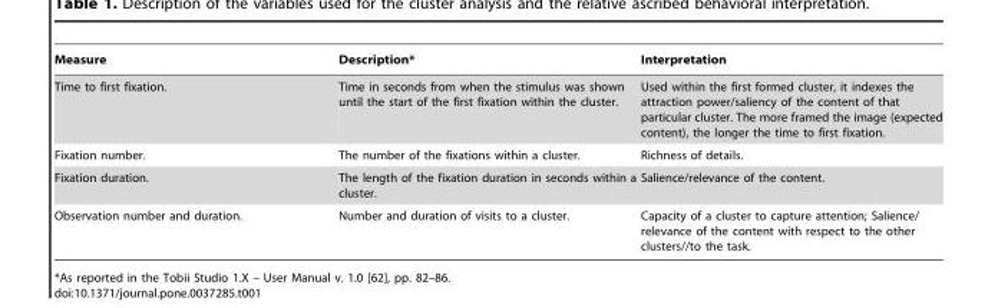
<table><thead><tr><td>Measure</td><td>Description*</td><td>Interpretation</td></tr></thead><tbody><tr><td>Time to first fixation.</td><td>Time in seconds from when the stimulus was shown until the start of the first fixation within the cluster.</td><td>Used within the first formed cluster, it indexes the attraction power/saliency of the content of that particular cluster. The more framed the image (expected content), the longer the time to first fixation.</td></tr><tr><td>Fixation number.</td><td>The number of the fixations within a cluster.</td><td>Richness of details.</td></tr><tr><td>Fixation duration.</td><td>The length of the fixation duration in seconds within a cluster.</td><td>Salience/relevance of the content.</td></tr><tr><td>Observation number and duration.</td><td>Number and duration of visits to a cluster.</td><td>Capacity of a cluster to capture attention; Salience/ relevance of the content with respect to the other clusters//to the task.</td></tr></tbody></table>